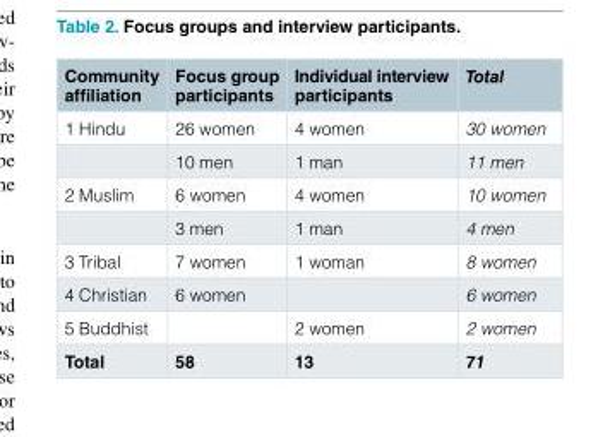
<table><thead><tr><td>Community affiliation</td><td>Focus group participants</td><td>Individual interview participants</td><td>Total</td></tr></thead><tbody><tr><td rowspan="2">1 Hindu</td><td>26 women</td><td>4 women</td><td>30 women</td></tr><tr><td>10 men</td><td>1 man</td><td>11 men</td></tr><tr><td rowspan="2">2 Muslim</td><td>6 women</td><td>4 women</td><td>10 women</td></tr><tr><td>3 men</td><td>1 man</td><td>4 men</td></tr><tr><td>3 Tribal</td><td>7 women</td><td>1 woman</td><td>8 women</td></tr><tr><td>4 Christian</td><td>6 women</td><td></td><td>6 women</td></tr><tr><td>5 Buddhist</td><td></td><td>2 women</td><td>2 women</td></tr><tr><td>Total</td><td>58</td><td>13</td><td>71</td></tr></tbody></table>